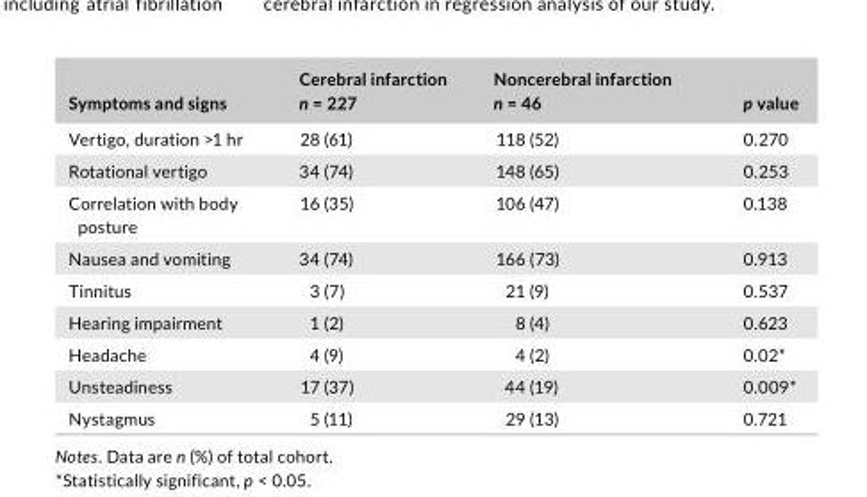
<table><thead><tr><td>Symptoms and signs</td><td>Cerebral infarction n = 227</td><td>Noncerebral infarction n = 46</td><td>p value</td></tr></thead><tbody><tr><td>Vertigo, duration &gt;1 hr</td><td>28 (61)</td><td>118 (52)</td><td>0.270</td></tr><tr><td>Rotational vertigo</td><td>34 (74)</td><td>148 (65)</td><td>0.253</td></tr><tr><td>Correlation with body posture</td><td>16 (35)</td><td>106 (47)</td><td>0.138</td></tr><tr><td>Nausea and vomiting</td><td>34 (74)</td><td>166 (73)</td><td>0.913</td></tr><tr><td>Tinnitus</td><td>3 (7)</td><td>21 (9)</td><td>0.537</td></tr><tr><td>Hearing impairment</td><td>1 (2)</td><td>8 (4)</td><td>0.623</td></tr><tr><td>Headache</td><td>4 (9)</td><td>4 (2)</td><td>0.02*</td></tr><tr><td>Unsteadiness</td><td>17 (37)</td><td>44 (19)</td><td>0.009*</td></tr><tr><td>Nystagmus</td><td>5 (11)</td><td>29 (13)</td><td>0.721</td></tr></tbody></table>